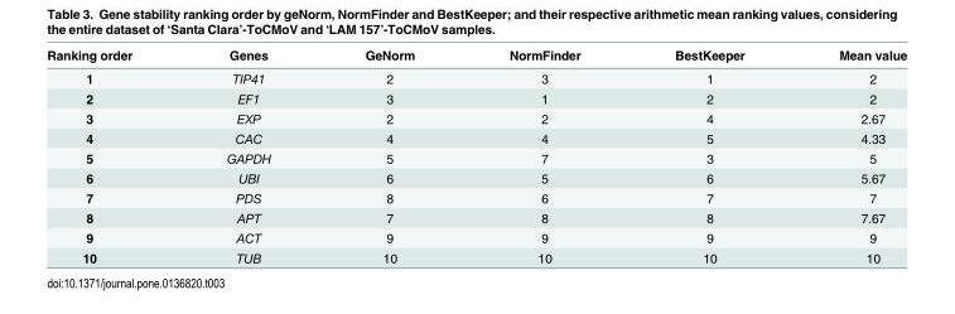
<table><thead><tr><td>Ranking order</td><td>Genes</td><td>GeNorm</td><td>NormFinder</td><td>BestKeeper</td><td>Mean value</td></tr></thead><tbody><tr><td>1</td><td>TIP41</td><td>2</td><td>3</td><td>1</td><td>2</td></tr><tr><td>2</td><td>EF1</td><td>3</td><td>1</td><td>2</td><td>2</td></tr><tr><td>3</td><td>EXP</td><td>2</td><td>2</td><td>4</td><td>2.67</td></tr><tr><td>4</td><td>CAC</td><td>4</td><td>4</td><td>5</td><td>4.33</td></tr><tr><td>5</td><td>GAPDH</td><td>5</td><td>7</td><td>3</td><td>5</td></tr><tr><td>6</td><td>UBI</td><td>6</td><td>5</td><td>6</td><td>5.67</td></tr><tr><td>7</td><td>PDS</td><td>8</td><td>6</td><td>7</td><td>7</td></tr><tr><td>8</td><td>APT</td><td>7</td><td>8</td><td>8</td><td>7.67</td></tr><tr><td>9</td><td>ACT</td><td>9</td><td>9</td><td>9</td><td>9</td></tr><tr><td>10</td><td>TUB</td><td>10</td><td>10</td><td>10</td><td>10</td></tr></tbody></table>